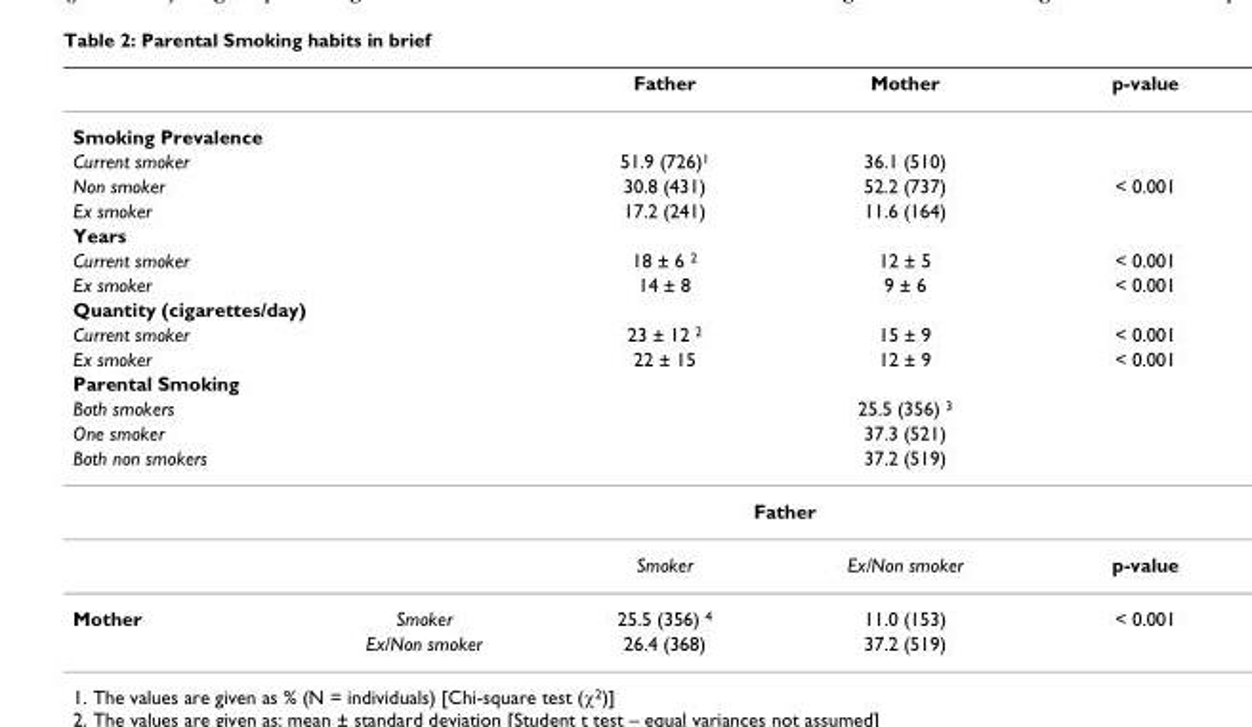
<table><thead><tr><td></td><td></td><td>Father</td><td>Mother</td><td>p-value</td></tr></thead><tbody><tr><td colspan="5">Smoking Prevalence</td></tr><tr><td>Current smoker</td><td></td><td>51.9 (726)<sup>1</sup></td><td>36.1 (510)</td><td></td></tr><tr><td colspan="2">Non smoker</td><td>30.8 (431)</td><td>52.2 (737)</td><td>&lt; 0.001</td></tr><tr><td colspan="2">Ex smoker</td><td>17.2 (241)</td><td>11.6 (164)</td><td></td></tr><tr><td colspan="5">Years</td></tr><tr><td colspan="2">Current smoker</td><td>18 ± 6 <sup>2</sup></td><td>12 ± 5</td><td>&lt; 0.001</td></tr><tr><td colspan="2">Ex smoker</td><td>14 ± 8</td><td>9 ± 6</td><td>&lt; 0.001</td></tr><tr><td colspan="5">Quantity (cigarettes/day)</td></tr><tr><td colspan="2">Current smoker</td><td>23 ± 12 <sup>2</sup></td><td>15 ± 9</td><td>&lt; 0.001</td></tr><tr><td colspan="2">Ex smoker</td><td>22 ± 15</td><td>12 ± 9</td><td>&lt; 0.001</td></tr><tr><td colspan="5">Parental Smoking</td></tr><tr><td colspan="2">Both smokers</td><td colspan="3">25.5 (356) <sup>3</sup></td></tr><tr><td colspan="2">One smoker</td><td colspan="3">37.3 (521)</td></tr><tr><td colspan="2">Both non smokers</td><td colspan="3">37.2 (519)</td></tr><tr><td></td><td></td><td colspan="2">Father</td><td></td></tr><tr><td></td><td></td><td>Smoker</td><td>Ex/Non smoker</td><td>p-value</td></tr><tr><td rowspan="2">Mother</td><td>Smoker</td><td>25.5 (356) <sup>4</sup></td><td>11.0 (153)</td><td>&lt; 0.001</td></tr><tr><td>Ex/Non smoker</td><td>26.4 (368)</td><td>37.2 (519)</td><td></td></tr></tbody></table>